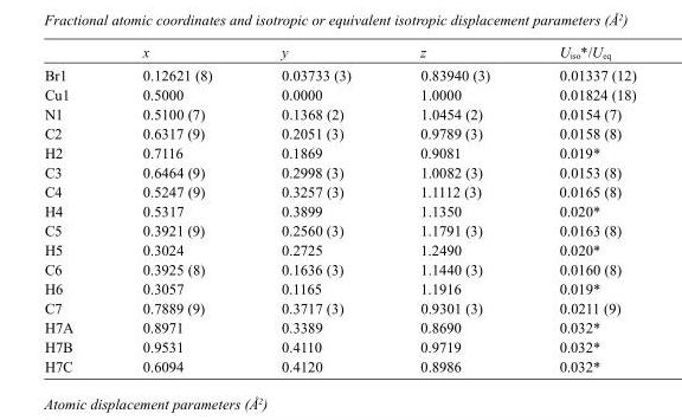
<table><thead><tr><td></td><td>x</td><td>y</td><td>z</td><td>U<sub>iso</sub>*/U<sub>eq</sub></td></tr></thead><tbody><tr><td>Br1</td><td>0.12621 (8)</td><td>0.03733 (3)</td><td>0.83940 (3)</td><td>0.01337 (12)</td></tr><tr><td>Cu1</td><td>0.5000</td><td>0.0000</td><td>1.0000</td><td>0.01824 (18)</td></tr><tr><td>N1</td><td>0.5100 (7)</td><td>0.1368 (2)</td><td>1.0454 (2)</td><td>0.0154 (7)</td></tr><tr><td>C2</td><td>0.6317 (9)</td><td>0.2051 (3)</td><td>0.9789 (3)</td><td>0.0158 (8)</td></tr><tr><td>H2</td><td>0.7116</td><td>0.1869</td><td>0.9081</td><td>0.019*</td></tr><tr><td>C3</td><td>0.6464 (9)</td><td>0.2998 (3)</td><td>1.0082 (3)</td><td>0.0153 (8)</td></tr><tr><td>C4</td><td>0.5247 (9)</td><td>0.3257 (3)</td><td>1.1112 (3)</td><td>0.0165 (8)</td></tr><tr><td>H4</td><td>0.5317</td><td>0.3899</td><td>1.1350</td><td>0.020*</td></tr><tr><td>C5</td><td>0.3921 (9)</td><td>0.2560 (3)</td><td>1.1791 (3)</td><td>0.0163 (8)</td></tr><tr><td>H5</td><td>0.3024</td><td>0.2725</td><td>1.2490</td><td>0.020*</td></tr><tr><td>C6</td><td>0.3925 (8)</td><td>0.1636 (3)</td><td>1.1440 (3)</td><td>0.0160 (8)</td></tr><tr><td>H6</td><td>0.3057</td><td>0.1165</td><td>1.1916</td><td>0.019*</td></tr><tr><td>C7</td><td>0.7889 (9)</td><td>0.3717 (3)</td><td>0.9301 (3)</td><td>0.0211 (9)</td></tr><tr><td>H7A</td><td>0.8971</td><td>0.3389</td><td>0.8690</td><td>0.032*</td></tr><tr><td>H7B</td><td>0.9531</td><td>0.4110</td><td>0.9719</td><td>0.032*</td></tr><tr><td>H7C</td><td>0.6094</td><td>0.4120</td><td>0.8986</td><td>0.032*</td></tr></tbody></table>